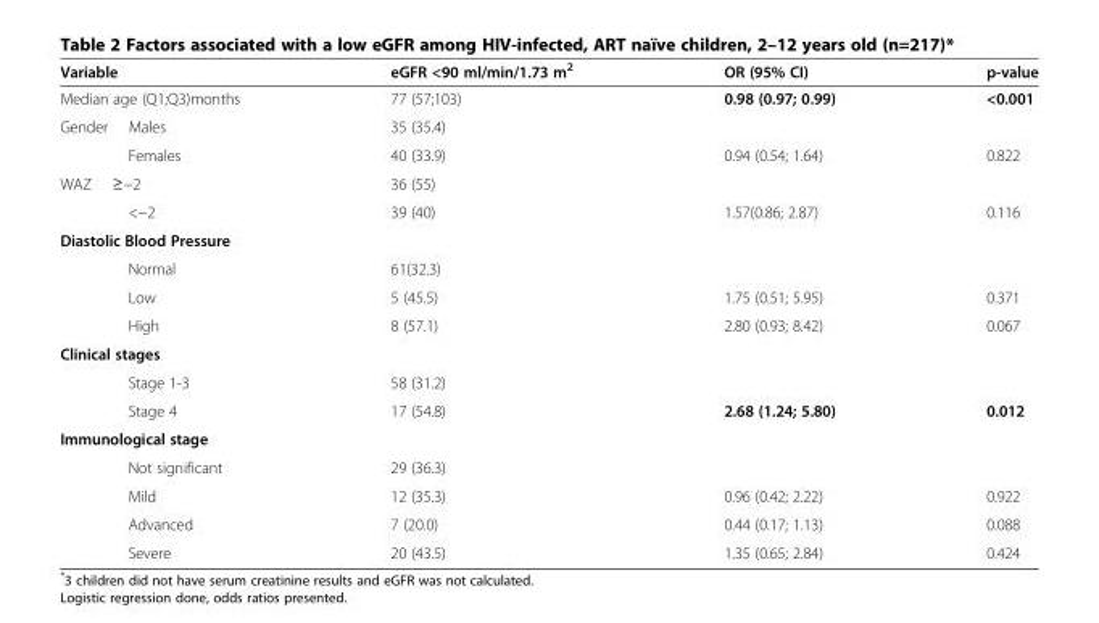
<table><thead><tr><td>Variable</td><td>eGFR &lt;90 ml/min/1.73 m<sup>2</sup></td><td>OR (95% CI)</td><td>p-value</td></tr></thead><tbody><tr><td>Median age (Q1;Q3)months</td><td>77 (57;103)</td><td>0.98 (0.97; 0.99)</td><td>&lt;0.001</td></tr><tr><td>Gender Males</td><td>35 (35.4)</td><td></td><td></td></tr><tr><td>Females</td><td>40 (33.9)</td><td>0.94 (0.54; 1.64)</td><td>0.822</td></tr><tr><td>WAZ ≥−2</td><td>36 (55)</td><td></td><td></td></tr><tr><td>&lt;−2</td><td>39 (40)</td><td>1.57(0.86; 2.87)</td><td>0.116</td></tr><tr><td colspan="4">Diastolic Blood Pressure</td></tr><tr><td>Normal</td><td>61(32.3)</td><td></td><td></td></tr><tr><td>Low</td><td>5 (45.5)</td><td>1.75 (0.51; 5.95)</td><td>0.371</td></tr><tr><td>High</td><td>8 (57.1)</td><td>2.80 (0.93; 8.42)</td><td>0.067</td></tr><tr><td colspan="4">Clinical stages</td></tr><tr><td>Stage 1-3</td><td>58 (31.2)</td><td></td><td></td></tr><tr><td>Stage 4</td><td>17 (54.8)</td><td>2.68 (1.24; 5.80)</td><td>0.012</td></tr><tr><td colspan="4">Immunological stage</td></tr><tr><td>Not significant</td><td>29 (36.3)</td><td></td><td></td></tr><tr><td>Mild</td><td>12 (35.3)</td><td>0.96 (0.42; 2.22)</td><td>0.922</td></tr><tr><td>Advanced</td><td>7 (20.0)</td><td>0.44 (0.17; 1.13)</td><td>0.088</td></tr><tr><td>Severe</td><td>20 (43.5)</td><td>1.35 (0.65; 2.84)</td><td>0.424</td></tr></tbody></table>